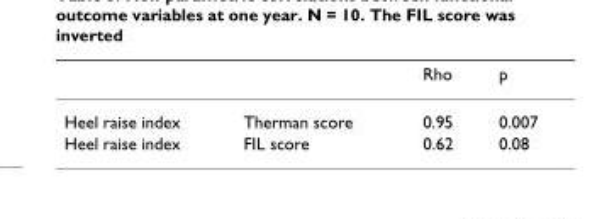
<table><thead><tr><td></td><td></td><td>Rho</td><td>p</td></tr></thead><tbody><tr><td>Heel raise index</td><td>Therman score</td><td>0.95</td><td>0.007</td></tr><tr><td>Heel raise index</td><td>FIL score</td><td>0.62</td><td>0.08</td></tr></tbody></table>